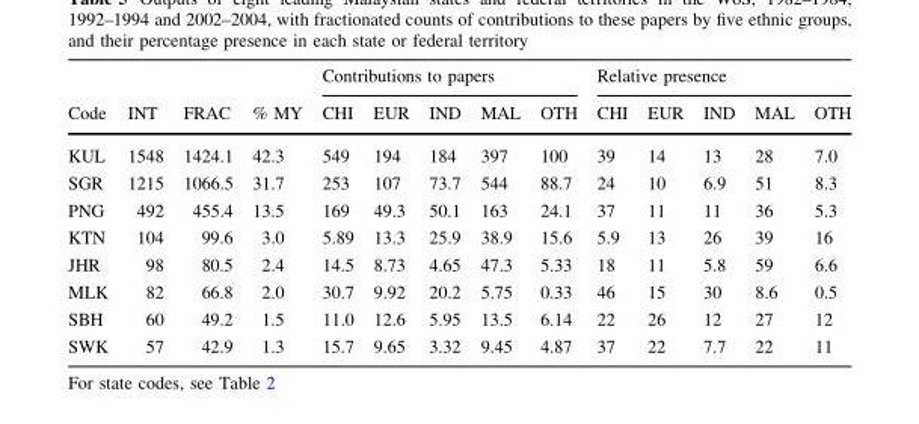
<table><thead><tr><td rowspan="2">Code</td><td rowspan="2">INT</td><td rowspan="2">FRAC</td><td rowspan="2">% MY</td><td colspan="5">Contributions to papers</td><td colspan="5">Relative presence</td></tr><tr><td>CHI</td><td>EUR</td><td>IND</td><td>MAL</td><td>OTH</td><td>CHI</td><td>EUR</td><td>IND</td><td>MAL</td><td>OTH</td></tr></thead><tbody><tr><td>KUL</td><td>1548</td><td>1424.1</td><td>42.3</td><td>549</td><td>194</td><td>184</td><td>397</td><td>100</td><td>39</td><td>14</td><td>13</td><td>28</td><td>7.0</td></tr><tr><td>SGR</td><td>1215</td><td>1066.5</td><td>31.7</td><td>253</td><td>107</td><td>73.7</td><td>544</td><td>88.7</td><td>24</td><td>10</td><td>6.9</td><td>51</td><td>8.3</td></tr><tr><td>PNG</td><td>492</td><td>455.4</td><td>13.5</td><td>169</td><td>49.3</td><td>50.1</td><td>163</td><td>24.1</td><td>37</td><td>11</td><td>11</td><td>36</td><td>5.3</td></tr><tr><td>KTN</td><td>104</td><td>99.6</td><td>3.0</td><td>5.89</td><td>13.3</td><td>25.9</td><td>38.9</td><td>15.6</td><td>5.9</td><td>13</td><td>26</td><td>39</td><td>16</td></tr><tr><td>JHR</td><td>98</td><td>80.5</td><td>2.4</td><td>14.5</td><td>8.73</td><td>4.65</td><td>47.3</td><td>5.33</td><td>18</td><td>11</td><td>5.8</td><td>59</td><td>6.6</td></tr><tr><td>MLK</td><td>82</td><td>66.8</td><td>2.0</td><td>30.7</td><td>9.92</td><td>20.2</td><td>5.75</td><td>0.33</td><td>46</td><td>15</td><td>30</td><td>8.6</td><td>0.5</td></tr><tr><td>SBH</td><td>60</td><td>49.2</td><td>1.5</td><td>11.0</td><td>12.6</td><td>5.95</td><td>13.5</td><td>6.14</td><td>22</td><td>26</td><td>12</td><td>27</td><td>12</td></tr><tr><td>SWK</td><td>57</td><td>42.9</td><td>1.3</td><td>15.7</td><td>9.65</td><td>3.32</td><td>9.45</td><td>4.87</td><td>37</td><td>22</td><td>7.7</td><td>22</td><td>11</td></tr></tbody></table>